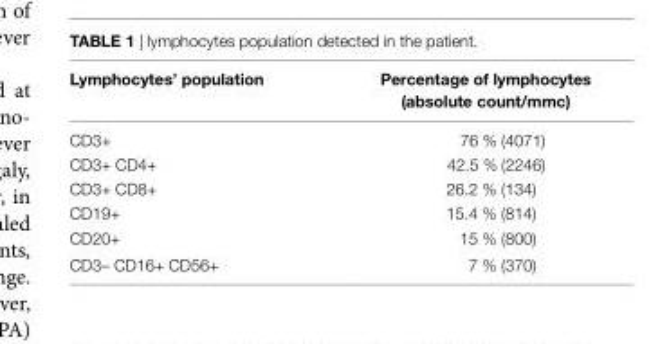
<table><thead><tr><td>lymphocytes’ population</td><td>percentage of lymphocytes (absolute count/mmc)</td></tr></thead><tbody><tr><td>CD3+</td><td>76 % (4071)</td></tr><tr><td>CD3+ CD4+</td><td>42.5 % (2246)</td></tr><tr><td>CD3+ CD8+</td><td>26.2 % (134)</td></tr><tr><td>CD19+</td><td>15.4 % (814)</td></tr><tr><td>CD20+</td><td>15 % (800)</td></tr><tr><td>CD3– CD16+ CD56+</td><td>7 % (370)</td></tr></tbody></table>